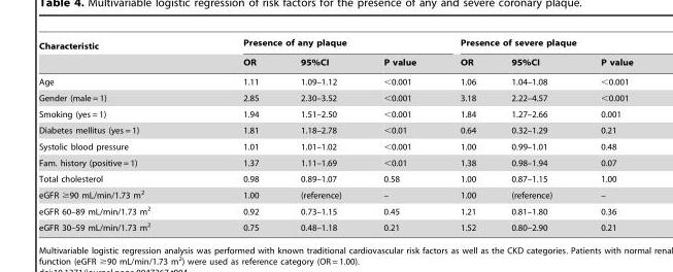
<table><thead><tr><td rowspan="2">Characteristic</td><td colspan="3">Presence of any plaque</td><td colspan="3">Presence of severe plaque</td></tr><tr><td>OR</td><td>95%CI</td><td>P value</td><td>OR</td><td>95%CI</td><td>P value</td></tr></thead><tbody><tr><td>Age</td><td>1.11</td><td>1.09–1.12</td><td>&lt;0.001</td><td>1.06</td><td>1.04–1.08</td><td>&lt;0.001</td></tr><tr><td>Gender (male = 1)</td><td>2.85</td><td>2.30–3.52</td><td>&lt;0.001</td><td>3.18</td><td>2.22–4.57</td><td>&lt;0.001</td></tr><tr><td>Smoking (yes = 1)</td><td>1.94</td><td>1.51–2.50</td><td>&lt;0.001</td><td>1.84</td><td>1.27–2.66</td><td>0.001</td></tr><tr><td>Diabetes mellitus (yes = 1)</td><td>1.81</td><td>1.18–2.78</td><td>&lt;0.01</td><td>0.64</td><td>0.32–1.29</td><td>0.21</td></tr><tr><td>Systolic blood pressure</td><td>1.01</td><td>1.01–1.02</td><td>&lt;0.001</td><td>1.00</td><td>0.99–1.01</td><td>0.48</td></tr><tr><td>Fam. history (positive = 1)</td><td>1.37</td><td>1.11–1.69</td><td>&lt;0.01</td><td>1.38</td><td>0.98–1.94</td><td>0.07</td></tr><tr><td>Total cholesterol</td><td>0.98</td><td>0.89–1.07</td><td>0.58</td><td>1.00</td><td>0.87–1.15</td><td>1.00</td></tr><tr><td>eGFR ≥90 mL/min/1.73 m<sup>2</sup></td><td>1.00</td><td>(reference)</td><td>–</td><td>1.00</td><td>(reference)</td><td>–</td></tr><tr><td>eGFR 60–89 mL/min/1.73 m<sup>2</sup></td><td>0.92</td><td>0.73–1.15</td><td>0.45</td><td>1.21</td><td>0.81–1.80</td><td>0.36</td></tr><tr><td>eGFR 30–59 mL/min/1.73 m<sup>2</sup></td><td>0.75</td><td>0.48–1.18</td><td>0.21</td><td>1.52</td><td>0.80–2.90</td><td>0.21</td></tr></tbody></table>